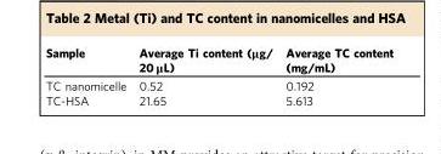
<table><thead><tr><td>Sample</td><td>Average Ti content (μg/ 20 μL)</td><td>Average TC content (mg/mL)</td></tr></thead><tbody><tr><td>TC nanomicelle</td><td>0.52</td><td>0.192</td></tr><tr><td>TC-HSA</td><td>21.65</td><td>5.613</td></tr></tbody></table>